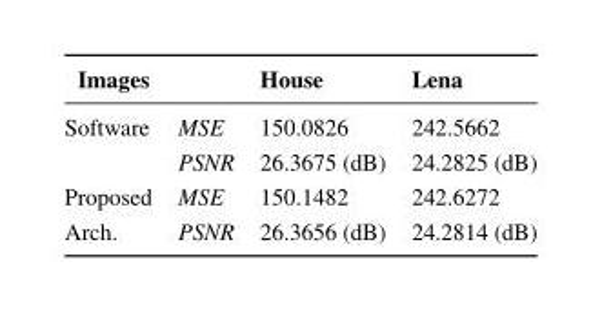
<table><thead><tr><td>Images</td><td></td><td>House</td><td>Lena</td></tr></thead><tbody><tr><td rowspan="2">Software</td><td>MSE</td><td>150.0826</td><td>242.5662</td></tr><tr><td>PSNR</td><td>26.3675 (dB)</td><td>24.2825 (dB)</td></tr><tr><td rowspan="2">Proposed Arch.</td><td>MSE</td><td>150.1482</td><td>242.6272</td></tr><tr><td>PSNR</td><td>26.3656 (dB)</td><td>24.2814 (dB)</td></tr></tbody></table>